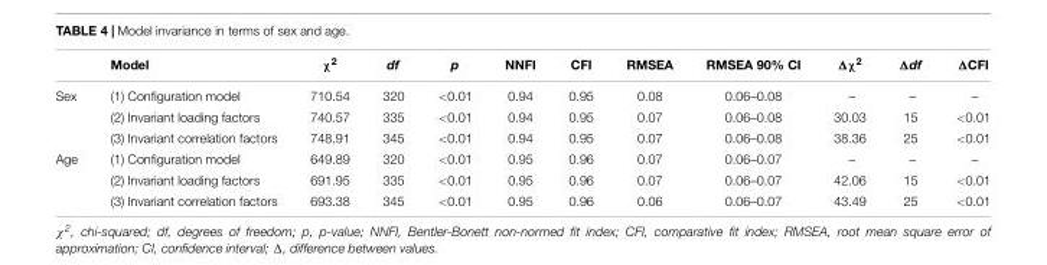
<table><thead><tr><td></td><td>Model</td><td>χ<sup>2</sup></td><td>df</td><td>p</td><td>NNFI</td><td>CFI</td><td>RMSEA</td><td>RMSEA 90% CI</td><td>Δχ<sup>2</sup></td><td>Δdf</td><td>ΔCFI</td></tr></thead><tbody><tr><td rowspan="3">Sex</td><td>(1) Configuration model</td><td>710.54</td><td>320</td><td>&lt;0.01</td><td>0.94</td><td>0.95</td><td>0.08</td><td>0.06–0.08</td><td>–</td><td>–</td><td>–</td></tr><tr><td>(2) Invariant loading factors</td><td>740.57</td><td>335</td><td>&lt;0.01</td><td>0.94</td><td>0.95</td><td>0.07</td><td>0.06–0.08</td><td>30.03</td><td>15</td><td>&lt;0.01</td></tr><tr><td>(3) Invariant correlation factors</td><td>748.91</td><td>345</td><td>&lt;0.01</td><td>0.94</td><td>0.95</td><td>0.07</td><td>0.06–0.08</td><td>38.36</td><td>25</td><td>&lt;0.01</td></tr><tr><td rowspan="3">Age</td><td>(1) Configuration model</td><td>649.89</td><td>320</td><td>&lt;0.01</td><td>0.95</td><td>0.96</td><td>0.07</td><td>0.06–0.07</td><td>–</td><td>–</td><td>–</td></tr><tr><td>(2) Invariant loading factors</td><td>691.95</td><td>335</td><td>&lt;0.01</td><td>0.95</td><td>0.96</td><td>0.07</td><td>0.06–0.07</td><td>42.06</td><td>15</td><td>&lt;0.01</td></tr><tr><td>(3) Invariant correlation factors</td><td>693.38</td><td>345</td><td>&lt;0.01</td><td>0.95</td><td>0.96</td><td>0.06</td><td>0.06–0.07</td><td>43.49</td><td>25</td><td>&lt;0.01</td></tr></tbody></table>